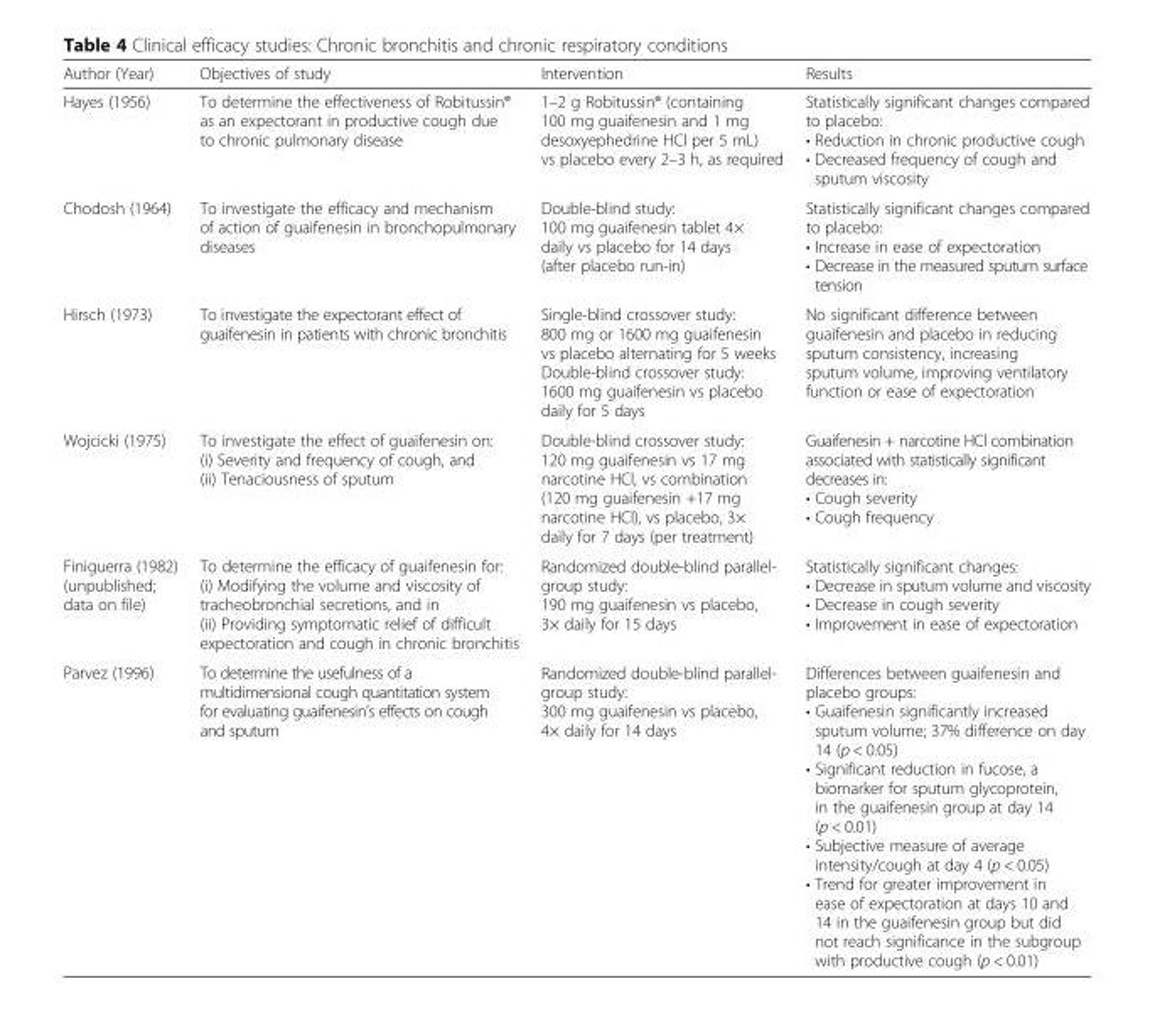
<table><thead><tr><td>Author (Year)</td><td>Objectives of study</td><td>Intervention</td><td>Results</td></tr></thead><tbody><tr><td>Hayes (1956)</td><td>To determine the effectiveness of Robitussin® as an expectorant in productive cough due to chronic pulmonary disease</td><td>1–2 g Robitussin® (containing 100 mg guaifenesin and 1 mg desoxyephedrine HCl per 5 mL) vs placebo every 2–3 h, as required</td><td>Statistically significant changes compared to placebo: • Reduction in chronic productive cough • Decreased frequency of cough and sputum viscosity</td></tr><tr><td>Chodosh (1964)</td><td>To investigate the efficacy and mechanism of action of guaifenesin in bronchopulmonary diseases</td><td>Double-blind study: 100 mg guaifenesin tablet 4× daily vs placebo for 14 days (after placebo run-in)</td><td>Statistically significant changes compared to placebo: • Increase in ease of expectoration • Decrease in the measured sputum surface tension</td></tr><tr><td>Hirsch (1973)</td><td>To investigate the expectorant effect of guaifenesin in patients with chronic bronchitis</td><td>Single-blind crossover study: 800 mg or 1600 mg guaifenesin vs placebo alternating for 5 weeks Double-blind crossover study: 1600 mg guaifenesin vs placebo daily for 5 days</td><td>No significant difference between guaifenesin and placebo in reducing sputum consistency, increasing sputum volume, improving ventilatory function or ease of expectoration</td></tr><tr><td>Wojcicki (1975)</td><td>To investigate the effect of guaifenesin on: (i) Severity and frequency of cough, and (ii) Tenaciousness of sputum</td><td>Double-blind crossover study: 120 mg guaifenesin vs 17 mg narcotine HCl, vs combination (120 mg guaifenesin +17 mg narcotine HCl), vs placebo, 3× daily for 7 days (per treatment)</td><td>Guaifenesin + narcotine HCl combination associated with statistically significant decreases in: • Cough severity • Cough frequency</td></tr><tr><td>Finiguerra (1982) (unpublished; data on file)</td><td>To determine the efficacy of guaifenesin for: (i) Modifying the volume and viscosity of tracheobronchial secretions, and in (ii) Providing symptomatic relief of difficult expectoration and cough in chronic bronchitis</td><td>Randomized double-blind parallel- group study: 190 mg guaifenesin vs placebo, 3× daily for 15 days</td><td>Statistically significant changes: • Decrease in sputum volume and viscosity • Decrease in cough severity • Improvement in ease of expectoration</td></tr><tr><td>Parvez (1996)</td><td>To determine the usefulness of a multidimensional cough quantitation system for evaluating guaifenesin’s effects on cough and sputum</td><td>Randomized double-blind parallel- group study: 300 mg guaifenesin vs placebo, 4× daily for 14 days</td><td>Differences between guaifenesin and placebo groups: • Guaifenesin significantly increased sputum volume; 37% difference on day 14 (p &lt; 0.05) • Significant reduction in fucose, a biomarker for sputum glycoprotein, in the guaifenesin group at day 14 (p &lt; 0.01) • Subjective measure of average intensity/cough at day 4 (p &lt; 0.05) • Trend for greater improvement in ease of expectoration at days 10 and 14 in the guaifenesin group but did not reach significance in the subgroup with productive cough (p &lt; 0.01)</td></tr></tbody></table>